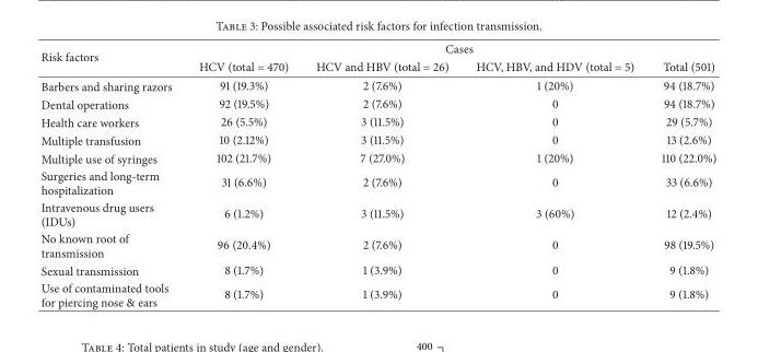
<table><thead><tr><td rowspan="2">Risk factors</td><td colspan="4">Cases</td></tr><tr><td>HCV (total = 470)</td><td>HCV and HBV (total = 26)</td><td>HCV, HBV, and HDV (total = 5)</td><td>Total (501)</td></tr></thead><tbody><tr><td>Barbers and sharing razors</td><td>91 (19.3%)</td><td>2 (7.6%)</td><td>1 (20%)</td><td>94 (18.7%)</td></tr><tr><td>Dental operations</td><td>92 (19.5%)</td><td>2 (7.6%)</td><td>0</td><td>94 (18.7%)</td></tr><tr><td>Health care workers</td><td>26 (5.5%)</td><td>3 (11.5%)</td><td>0</td><td>29 (5.7%)</td></tr><tr><td>Multiple transfusion</td><td>10 (2.12%)</td><td>3 (11.5%)</td><td>0</td><td>13 (2.6%)</td></tr><tr><td>Multiple use of syringes</td><td>102 (21.7%)</td><td>7 (27.0%)</td><td>1 (20%)</td><td>110 (22.0%)</td></tr><tr><td>Surgeries and long-term hospitalization</td><td>31 (6.6%)</td><td>2 (7.6%)</td><td>0</td><td>33 (6.6%)</td></tr><tr><td>Intravenous drug users (IDUs)</td><td>6 (1.2%)</td><td>3 (11.5%)</td><td>3 (60%)</td><td>12 (2.4%)</td></tr><tr><td>No known root of transmission</td><td>96 (20.4%)</td><td>2 (7.6%)</td><td>0</td><td>98 (19.5%)</td></tr><tr><td>Sexual transmission</td><td>8 (1.7%)</td><td>1 (3.9%)</td><td>0</td><td>9 (1.8%)</td></tr><tr><td>Use of contaminated tools for piercing nose &amp; ears</td><td>8 (1.7%)</td><td>1 (3.9%)</td><td>0</td><td>9 (1.8%)</td></tr></tbody></table>